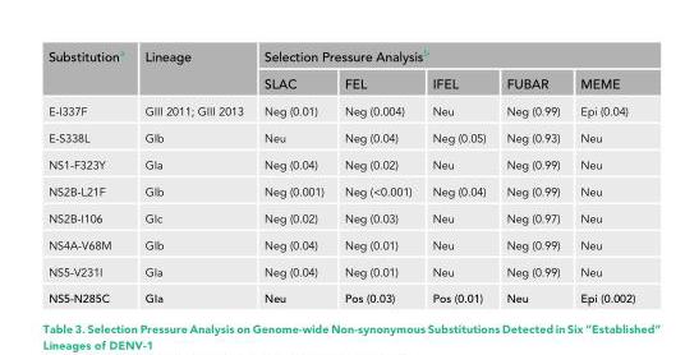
<table><thead><tr><td rowspan="2">Substitution<sup>a</sup></td><td rowspan="2">Lineage</td><td colspan="5">Selection Pressure Analysis<sup>b</sup></td></tr><tr><td>SLAC</td><td>FEL</td><td>IFEL</td><td>FUBAR</td><td>MEME</td></tr></thead><tbody><tr><td>E-I337F</td><td>GIII 2011; GIII 2013</td><td>Neg (0.01)</td><td>Neg (0.004)</td><td>Neu</td><td>Neg (0.99)</td><td>Epi (0.04)</td></tr><tr><td>E-S338L</td><td>GIb</td><td>Neu</td><td>Neg (0.04)</td><td>Neg (0.05)</td><td>Neg (0.93)</td><td>Neu</td></tr><tr><td>NS1-F323Y</td><td>GIa</td><td>Neg (0.04)</td><td>Neg (0.02)</td><td>Neu</td><td>Neg (0.99)</td><td>Neu</td></tr><tr><td>NS2B-L21F</td><td>GIb</td><td>Neg (0.001)</td><td>Neg (&lt;0.001)</td><td>Neg (0.04)</td><td>Neg (0.99)</td><td>Neu</td></tr><tr><td>NS2B-I106</td><td>GIc</td><td>Neg (0.02)</td><td>Neg (0.03)</td><td>Neu</td><td>Neg (0.97)</td><td>Neu</td></tr><tr><td>NS4A-V68M</td><td>GIb</td><td>Neg (0.04)</td><td>Neg (0.01)</td><td>Neu</td><td>Neg (0.99)</td><td>Neu</td></tr><tr><td>NS5-V231I</td><td>GIa</td><td>Neg (0.04)</td><td>Neg (0.01)</td><td>Neu</td><td>Neg (0.99)</td><td>Neu</td></tr><tr><td>NS5-N285C</td><td>GIa</td><td>Neu</td><td>Pos (0.03)</td><td>Pos (0.01)</td><td>Neu</td><td>Epi (0.002)</td></tr></tbody></table>